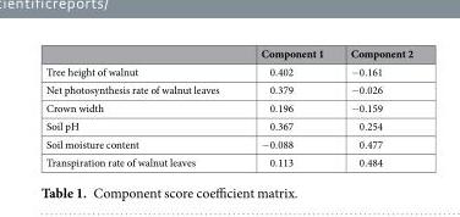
<table><thead><tr><td></td><td>Component 1</td><td>Component 2</td></tr></thead><tbody><tr><td>Tree height of walnut</td><td>0.402</td><td>−0.161</td></tr><tr><td>Net photosynthesis rate of walnut leaves</td><td>0.379</td><td>−0.026</td></tr><tr><td>Crown width</td><td>0.196</td><td>−0.159</td></tr><tr><td>Soil pH</td><td>0.367</td><td>0.254</td></tr><tr><td>Soil moisture content</td><td>−0.088</td><td>0.477</td></tr><tr><td>Transpiration rate of walnut leaves</td><td>0.113</td><td>0.484</td></tr></tbody></table>